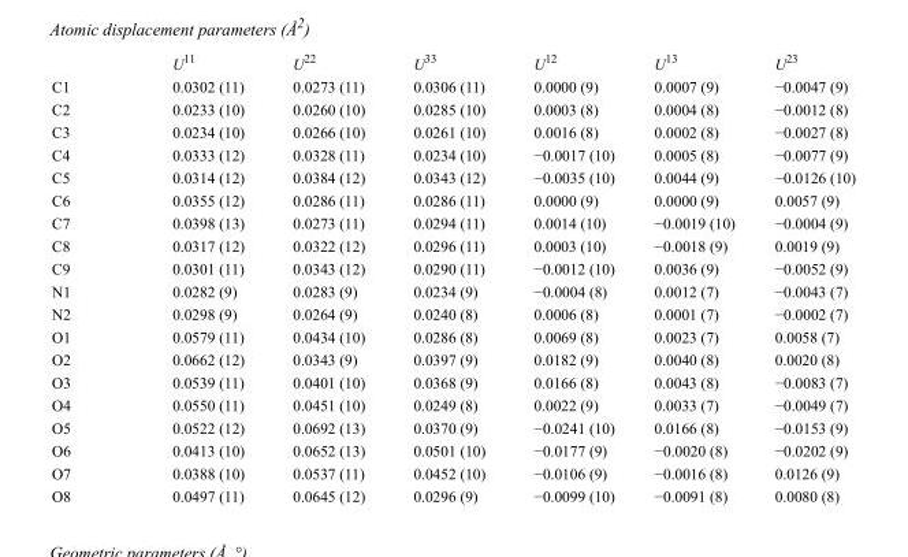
<table><thead><tr><td></td><td>U<sup>11</sup></td><td>U<sup>22</sup></td><td>U<sup>33</sup></td><td>U<sup>12</sup></td><td>U<sup>13</sup></td><td>U<sup>23</sup></td></tr></thead><tbody><tr><td>C1</td><td>0.0302 (11)</td><td>0.0273 (11)</td><td>0.0306 (11)</td><td>0.0000 (9)</td><td>0.0007 (9)</td><td>−0.0047 (9)</td></tr><tr><td>C2</td><td>0.0233 (10)</td><td>0.0260 (10)</td><td>0.0285 (10)</td><td>0.0003 (8)</td><td>0.0004 (8)</td><td>−0.0012 (8)</td></tr><tr><td>C3</td><td>0.0234 (10)</td><td>0.0266 (10)</td><td>0.0261 (10)</td><td>0.0016 (8)</td><td>0.0002 (8)</td><td>−0.0027 (8)</td></tr><tr><td>C4</td><td>0.0333 (12)</td><td>0.0328 (11)</td><td>0.0234 (10)</td><td>−0.0017 (10)</td><td>0.0005 (8)</td><td>−0.0077 (9)</td></tr><tr><td>C5</td><td>0.0314 (12)</td><td>0.0384 (12)</td><td>0.0343 (12)</td><td>−0.0035 (10)</td><td>0.0044 (9)</td><td>−0.0126 (10)</td></tr><tr><td>C6</td><td>0.0355 (12)</td><td>0.0286 (11)</td><td>0.0286 (11)</td><td>0.0000 (9)</td><td>0.0000 (9)</td><td>0.0057 (9)</td></tr><tr><td>C7</td><td>0.0398 (13)</td><td>0.0273 (11)</td><td>0.0294 (11)</td><td>0.0014 (10)</td><td>−0.0019 (10)</td><td>−0.0004 (9)</td></tr><tr><td>C8</td><td>0.0317 (12)</td><td>0.0322 (12)</td><td>0.0296 (11)</td><td>0.0003 (10)</td><td>−0.0018 (9)</td><td>0.0019 (9)</td></tr><tr><td>C9</td><td>0.0301 (11)</td><td>0.0343 (12)</td><td>0.0290 (11)</td><td>−0.0012 (10)</td><td>0.0036 (9)</td><td>−0.0052 (9)</td></tr><tr><td>N1</td><td>0.0282 (9)</td><td>0.0283 (9)</td><td>0.0234 (9)</td><td>−0.0004 (8)</td><td>0.0012 (7)</td><td>−0.0043 (7)</td></tr><tr><td>N2</td><td>0.0298 (9)</td><td>0.0264 (9)</td><td>0.0240 (8)</td><td>0.0006 (8)</td><td>0.0001 (7)</td><td>−0.0002 (7)</td></tr><tr><td>O1</td><td>0.0579 (11)</td><td>0.0434 (10)</td><td>0.0286 (8)</td><td>0.0069 (8)</td><td>0.0023 (7)</td><td>0.0058 (7)</td></tr><tr><td>O2</td><td>0.0662 (12)</td><td>0.0343 (9)</td><td>0.0397 (9)</td><td>0.0182 (9)</td><td>0.0040 (8)</td><td>0.0020 (8)</td></tr><tr><td>O3</td><td>0.0539 (11)</td><td>0.0401 (10)</td><td>0.0368 (9)</td><td>0.0166 (8)</td><td>0.0043 (8)</td><td>−0.0083 (7)</td></tr><tr><td>O4</td><td>0.0550 (11)</td><td>0.0451 (10)</td><td>0.0249 (8)</td><td>0.0022 (9)</td><td>0.0033 (7)</td><td>−0.0049 (7)</td></tr><tr><td>O5</td><td>0.0522 (12)</td><td>0.0692 (13)</td><td>0.0370 (9)</td><td>−0.0241 (10)</td><td>0.0166 (8)</td><td>−0.0153 (9)</td></tr><tr><td>O6</td><td>0.0413 (10)</td><td>0.0652 (13)</td><td>0.0501 (10)</td><td>−0.0177 (9)</td><td>−0.0020 (8)</td><td>−0.0202 (9)</td></tr><tr><td>O7</td><td>0.0388 (10)</td><td>0.0537 (11)</td><td>0.0452 (10)</td><td>−0.0106 (9)</td><td>−0.0016 (8)</td><td>0.0126 (9)</td></tr><tr><td>O8</td><td>0.0497 (11)</td><td>0.0645 (12)</td><td>0.0296 (9)</td><td>−0.0099 (10)</td><td>−0.0091 (8)</td><td>0.0080 (8)</td></tr></tbody></table>